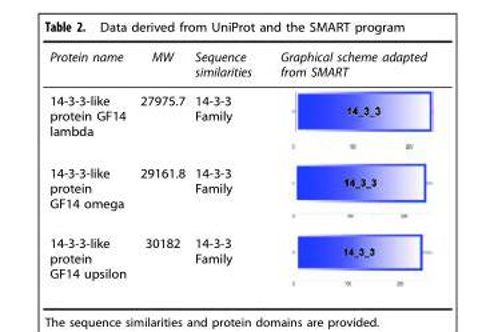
<table><thead><tr><td>Protein name</td><td>MW</td><td>Sequence similarities</td><td>Graphical scheme adapted from SMART</td></tr></thead><tbody><tr><td>14-3-3-like protein GF14 lambda</td><td>27975.7</td><td>14-3-3 Family</td><td></td></tr><tr><td>14-3-3-like protein GF14 omega</td><td>29161.8</td><td>14-3-3 Family</td><td></td></tr><tr><td>14-3-3-like protein GF14 upsilon</td><td>30182</td><td>14-3-3 Family</td><td></td></tr></tbody></table>